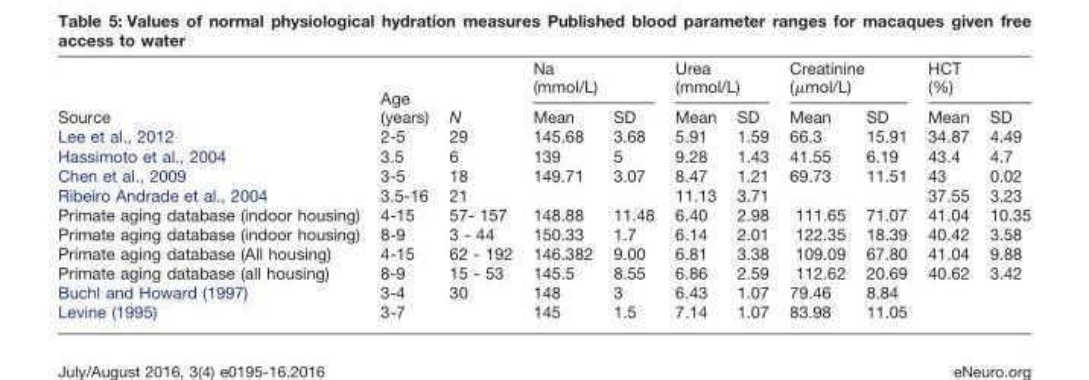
<table><thead><tr><td rowspan="2">Source</td><td rowspan="2">Age (years)</td><td rowspan="2">N</td><td colspan="2">Na (mmol/L)</td><td colspan="2">Urea (mmol/L)</td><td colspan="2">Creatinine (µmol/L)</td><td colspan="2">HCT (%)</td></tr><tr><td>Mean</td><td>SD</td><td>Mean</td><td>SD</td><td>Mean</td><td>SD</td><td>Mean</td><td>SD</td></tr></thead><tbody><tr><td>Lee et al., 2012</td><td>2-5</td><td>29</td><td>145.68</td><td>3.68</td><td>5.91</td><td>1.59</td><td>66.3</td><td>15.91</td><td>34.87</td><td>4.49</td></tr><tr><td>Hassimoto et al., 2004</td><td>3.5</td><td>6</td><td>139</td><td>5</td><td>9.28</td><td>1.43</td><td>41.55</td><td>6.19</td><td>43.4</td><td>4.7</td></tr><tr><td>Chen et al., 2009</td><td>3-5</td><td>18</td><td>149.71</td><td>3.07</td><td>8.47</td><td>1.21</td><td>69.73</td><td>11.51</td><td>43</td><td>0.02</td></tr><tr><td>Ribeiro Andrade et al., 2004</td><td>3.5-16</td><td>21</td><td></td><td></td><td>11.13</td><td>3.71</td><td></td><td></td><td>37.55</td><td>3.23</td></tr><tr><td>Primate aging database (indoor housing)</td><td>4-15</td><td>57- 157</td><td>148.88</td><td>11.48</td><td>6.40</td><td>2.98</td><td>111.65</td><td>71.07</td><td>41.04</td><td>10.35</td></tr><tr><td>Primate aging database (indoor housing)</td><td>8-9</td><td>3 - 44</td><td>150.33</td><td>1.7</td><td>6.14</td><td>2.01</td><td>122.35</td><td>18.39</td><td>40.42</td><td>3.58</td></tr><tr><td>Primate aging database (All housing)</td><td>4-15</td><td>62 - 192</td><td>146.382</td><td>9.00</td><td>6.81</td><td>3.38</td><td>109.09</td><td>67.80</td><td>41.04</td><td>9.88</td></tr><tr><td>Primate aging database (all housing)</td><td>8-9</td><td>15 - 53</td><td>145.5</td><td>8.55</td><td>6.86</td><td>2.59</td><td>112.62</td><td>20.69</td><td>40.62</td><td>3.42</td></tr><tr><td>Buchl and Howard (1997)</td><td>3-4</td><td>30</td><td>148</td><td>3</td><td>6.43</td><td>1.07</td><td>79.46</td><td>8.84</td><td></td><td></td></tr><tr><td>Levine (1995)</td><td>3-7</td><td></td><td>145</td><td>1.5</td><td>7.14</td><td>1.07</td><td>83.98</td><td>11.05</td><td></td><td></td></tr></tbody></table>